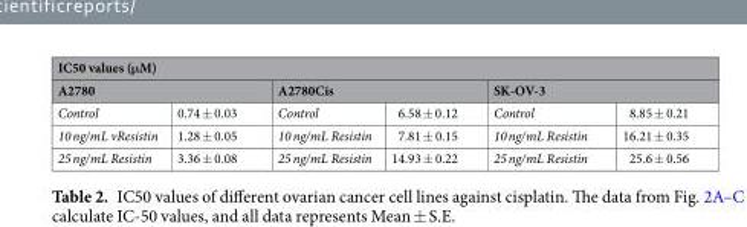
<table><thead><tr><td colspan="6">IC50 values (μM)</td></tr><tr><td colspan="2">A2780</td><td colspan="2">A2780Cis</td><td colspan="2">SK-OV-3</td></tr><tr><td>Control</td><td>0.74 ± 0.03</td><td>Control</td><td>6.58 ± 0.12</td><td>Control</td><td>8.85 ± 0.21</td></tr></thead><tbody><tr><td>10 ng/mL vResistin</td><td>1.28 ± 0.05</td><td>10 ng/mL Resistin</td><td>7.81 ± 0.15</td><td>10 ng/mL Resistin</td><td>16.21 ± 0.35</td></tr><tr><td>25 ng/mL Resistin</td><td>3.36 ± 0.08</td><td>25 ng/mL Resistin</td><td>14.93 ± 0.22</td><td>25 ng/mL Resistin</td><td>25.6 ± 0.56</td></tr></tbody></table>